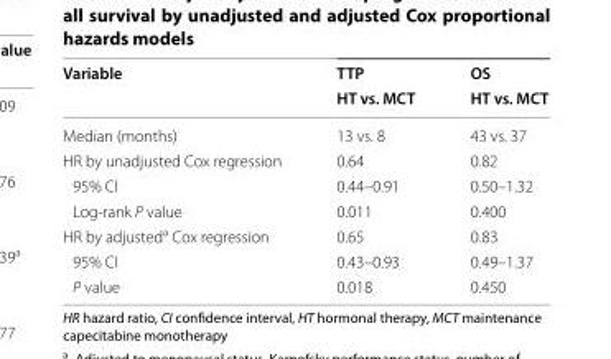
<table><thead><tr><td rowspan="2">Variable</td><td rowspan="2">TTP HT vs. MCT</td><td rowspan="2">OS HT vs. MCT</td></tr><tr></tr></thead><tbody><tr><td>Median (months)</td><td>13 vs. 8</td><td>43 vs. 37</td></tr><tr><td>HR by unadjusted Cox regression</td><td>0.64</td><td>0.82</td></tr><tr><td>95% CI</td><td>0.44–0.91</td><td>0.50–1.32</td></tr><tr><td>Log‑rank P value</td><td>0.011</td><td>0.400</td></tr><tr><td>HR by adjusted<sup>a</sup> Cox regression</td><td>0.65</td><td>0.83</td></tr><tr><td>95% CI</td><td>0.43–0.93</td><td>0.49–1.37</td></tr><tr><td>P value</td><td>0.018</td><td>0.450</td></tr></tbody></table>